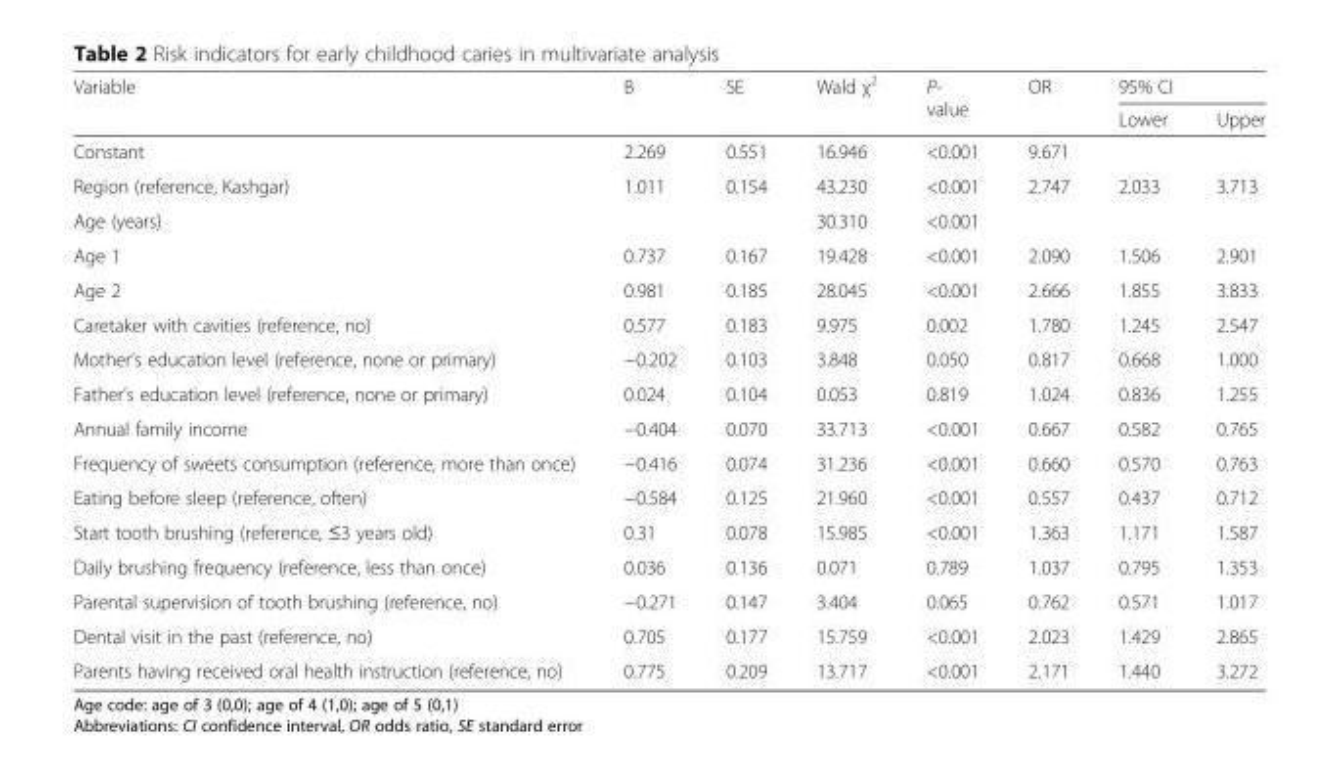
<table><thead><tr><td rowspan="2">Variable</td><td rowspan="2">B</td><td rowspan="2">SE</td><td rowspan="2">Wald χ<sup>2</sup></td><td rowspan="2">P- value</td><td rowspan="2">OR</td><td colspan="2">95% CI</td></tr><tr><td>Lower</td><td>Upper</td></tr></thead><tbody><tr><td>Constant</td><td>2.269</td><td>0.551</td><td>16.946</td><td>&lt;0.001</td><td>9.671</td><td></td><td></td></tr><tr><td>Region (reference, Kashgar)</td><td>1.011</td><td>0.154</td><td>43.230</td><td>&lt;0.001</td><td>2.747</td><td>2.033</td><td>3.713</td></tr><tr><td>Age (years)</td><td></td><td></td><td>30.310</td><td>&lt;0.001</td><td></td><td></td><td></td></tr><tr><td>Age 1</td><td>0.737</td><td>0.167</td><td>19.428</td><td>&lt;0.001</td><td>2.090</td><td>1.506</td><td>2.901</td></tr><tr><td>Age 2</td><td>0.981</td><td>0.185</td><td>28.045</td><td>&lt;0.001</td><td>2.666</td><td>1.855</td><td>3.833</td></tr><tr><td>Caretaker with cavities (reference, no)</td><td>0.577</td><td>0.183</td><td>9.975</td><td>0.002</td><td>1.780</td><td>1.245</td><td>2.547</td></tr><tr><td>Mother’s education level (reference, none or primary)</td><td>−0.202</td><td>0.103</td><td>3.848</td><td>0.050</td><td>0.817</td><td>0.668</td><td>1.000</td></tr><tr><td>Father’s education level (reference, none or primary)</td><td>0.024</td><td>0.104</td><td>0.053</td><td>0.819</td><td>1.024</td><td>0.836</td><td>1.255</td></tr><tr><td>Annual family income</td><td>−0.404</td><td>0.070</td><td>33.713</td><td>&lt;0.001</td><td>0.667</td><td>0.582</td><td>0.765</td></tr><tr><td>Frequency of sweets consumption (reference, more than once)</td><td>−0.416</td><td>0.074</td><td>31.236</td><td>&lt;0.001</td><td>0.660</td><td>0.570</td><td>0.763</td></tr><tr><td>Eating before sleep (reference, often)</td><td>−0.584</td><td>0.125</td><td>21.960</td><td>&lt;0.001</td><td>0.557</td><td>0.437</td><td>0.712</td></tr><tr><td>Start tooth brushing (reference, ≤3 years old)</td><td>0.31</td><td>0.078</td><td>15.985</td><td>&lt;0.001</td><td>1.363</td><td>1.171</td><td>1.587</td></tr><tr><td>Daily brushing frequency (reference, less than once)</td><td>0.036</td><td>0.136</td><td>0.071</td><td>0.789</td><td>1.037</td><td>0.795</td><td>1.353</td></tr><tr><td>Parental supervision of tooth brushing (reference, no)</td><td>−0.271</td><td>0.147</td><td>3.404</td><td>0.065</td><td>0.762</td><td>0.571</td><td>1.017</td></tr><tr><td>Dental visit in the past (reference, no)</td><td>0.705</td><td>0.177</td><td>15.759</td><td>&lt;0.001</td><td>2.023</td><td>1.429</td><td>2.865</td></tr><tr><td>Parents having received oral health instruction (reference, no)</td><td>0.775</td><td>0.209</td><td>13.717</td><td>&lt;0.001</td><td>2.171</td><td>1.440</td><td>3.272</td></tr></tbody></table>